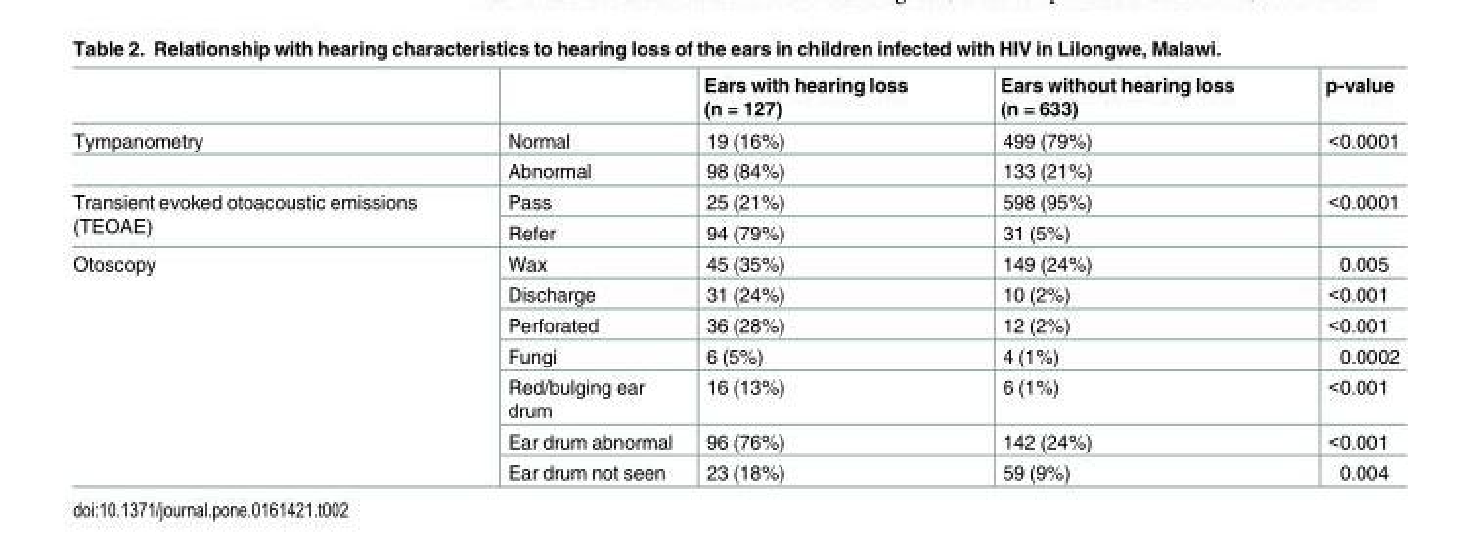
<table><thead><tr><td></td><td></td><td>Ears with hearing loss (n = 127)</td><td>Ears without hearing loss (n = 633)</td><td>p-value</td></tr></thead><tbody><tr><td rowspan="2">Tympanometry</td><td>Normal</td><td>19 (16%)</td><td>499 (79%)</td><td>&lt;0.0001</td></tr><tr><td>Abnormal</td><td>98 (84%)</td><td>133 (21%)</td><td></td></tr><tr><td rowspan="2">Transient evoked otoacoustic emissions (TEOAE)</td><td>Pass</td><td>25 (21%)</td><td>598 (95%)</td><td>&lt;0.0001</td></tr><tr><td>Refer</td><td>94 (79%)</td><td>31 (5%)</td><td></td></tr><tr><td rowspan="7">Otoscopy</td><td>Wax</td><td>45 (35%)</td><td>149 (24%)</td><td>0.005</td></tr><tr><td>Discharge</td><td>31 (24%)</td><td>10 (2%)</td><td>&lt;0.001</td></tr><tr><td>Perforated</td><td>36 (28%)</td><td>12 (2%)</td><td>&lt;0.001</td></tr><tr><td>Fungi</td><td>6 (5%)</td><td>4 (1%)</td><td>0.0002</td></tr><tr><td>Red/bulging ear drum</td><td>16 (13%)</td><td>6 (1%)</td><td>&lt;0.001</td></tr><tr><td>Ear drum abnormal</td><td>96 (76%)</td><td>142 (24%)</td><td>&lt;0.001</td></tr><tr><td>Ear drum not seen</td><td>23 (18%)</td><td>59 (9%)</td><td>0.004</td></tr></tbody></table>